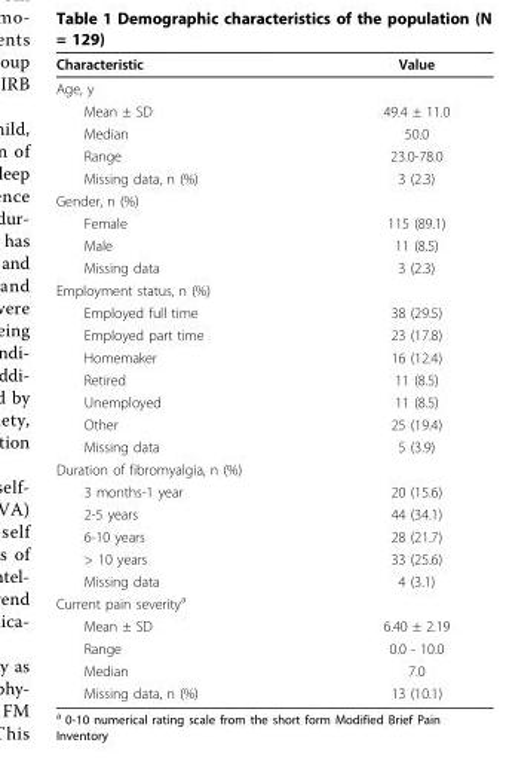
<table><thead><tr><td>Characteristic</td><td>Value</td></tr></thead><tbody><tr><td colspan="2">Age, y</td></tr><tr><td>Mean ± SD</td><td>49.4 ± 11.0</td></tr><tr><td>Median</td><td>50.0</td></tr><tr><td>Range</td><td>23.0-78.0</td></tr><tr><td>Missing data, n (%)</td><td>3 (2.3)</td></tr><tr><td colspan="2">Gender, n (%)</td></tr><tr><td>Female</td><td>115 (89.1)</td></tr><tr><td>Male</td><td>11 (8.5)</td></tr><tr><td>Missing data</td><td>3 (2.3)</td></tr><tr><td colspan="2">Employment status, n (%)</td></tr><tr><td>Employed full time</td><td>38 (29.5)</td></tr><tr><td>Employed part time</td><td>23 (17.8)</td></tr><tr><td>Homemaker</td><td>16 (12.4)</td></tr><tr><td>Retired</td><td>11 (8.5)</td></tr><tr><td>Unemployed</td><td>11 (8.5)</td></tr><tr><td>Other</td><td>25 (19.4)</td></tr><tr><td>Missing data</td><td>5 (3.9)</td></tr><tr><td colspan="2">Duration of fibromyalgia, n (%)</td></tr><tr><td>3 months-1 year</td><td>20 (15.6)</td></tr><tr><td>2-5 years</td><td>44 (34.1)</td></tr><tr><td>6-10 years</td><td>28 (21.7)</td></tr><tr><td>&gt; 10 years</td><td>33 (25.6)</td></tr><tr><td>Missing data</td><td>4 (3.1)</td></tr><tr><td colspan="2">Current pain severity<sup>a</sup></td></tr><tr><td>Mean ± SD</td><td>6.40 ± 2.19</td></tr><tr><td>Range</td><td>0.0 - 10.0</td></tr><tr><td>Median</td><td>7.0</td></tr><tr><td>Missing data, n (%)</td><td>13 (10.1)</td></tr></tbody></table>